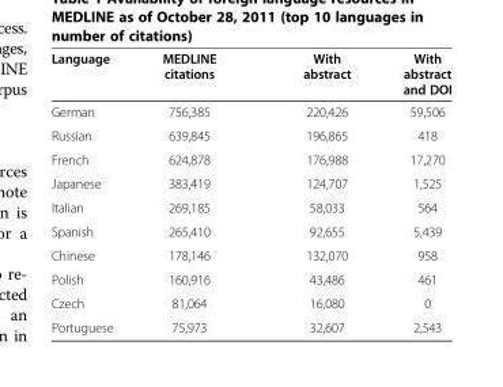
<table><thead><tr><td>Language</td><td>MEDLINE citations</td><td>With abstract</td><td>With abstract and DOI</td></tr></thead><tbody><tr><td>German</td><td>756,385</td><td>220,426</td><td>59,506</td></tr><tr><td>Russian</td><td>639,845</td><td>196,865</td><td>418</td></tr><tr><td>French</td><td>624,878</td><td>176,988</td><td>17,270</td></tr><tr><td>Japanese</td><td>383,419</td><td>124,707</td><td>1,525</td></tr><tr><td>Italian</td><td>269,185</td><td>58,033</td><td>564</td></tr><tr><td>Spanish</td><td>265,410</td><td>92,655</td><td>5,439</td></tr><tr><td>Chinese</td><td>178,146</td><td>132,070</td><td>958</td></tr><tr><td>Polish</td><td>160,916</td><td>43,486</td><td>461</td></tr><tr><td>Czech</td><td>81,064</td><td>16,080</td><td>0</td></tr><tr><td>Portuguese</td><td>75,973</td><td>32,607</td><td>2,543</td></tr></tbody></table>